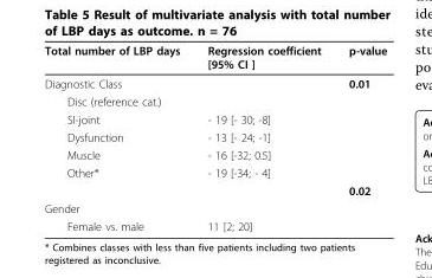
<table><thead><tr><td>Total number of LBP days</td><td>Regression coefficient [95% CI ]</td><td>p-value</td></tr></thead><tbody><tr><td>Diagnostic Class</td><td></td><td>0.01</td></tr><tr><td colspan="3">Disc (reference cat.)</td></tr><tr><td>SI-joint</td><td>- 19 [- 30; -8]</td><td></td></tr><tr><td>Dysfunction</td><td>- 13 [- 24; -1]</td><td></td></tr><tr><td>Muscle</td><td>- 16 [-32; 0.5]</td><td></td></tr><tr><td rowspan="2">Other*</td><td>- 19 [-34; - 4]</td><td></td></tr><tr><td></td><td>0.02</td></tr><tr><td colspan="3">Gender</td></tr><tr><td>Female vs. male</td><td>11 [2; 20]</td><td></td></tr></tbody></table>